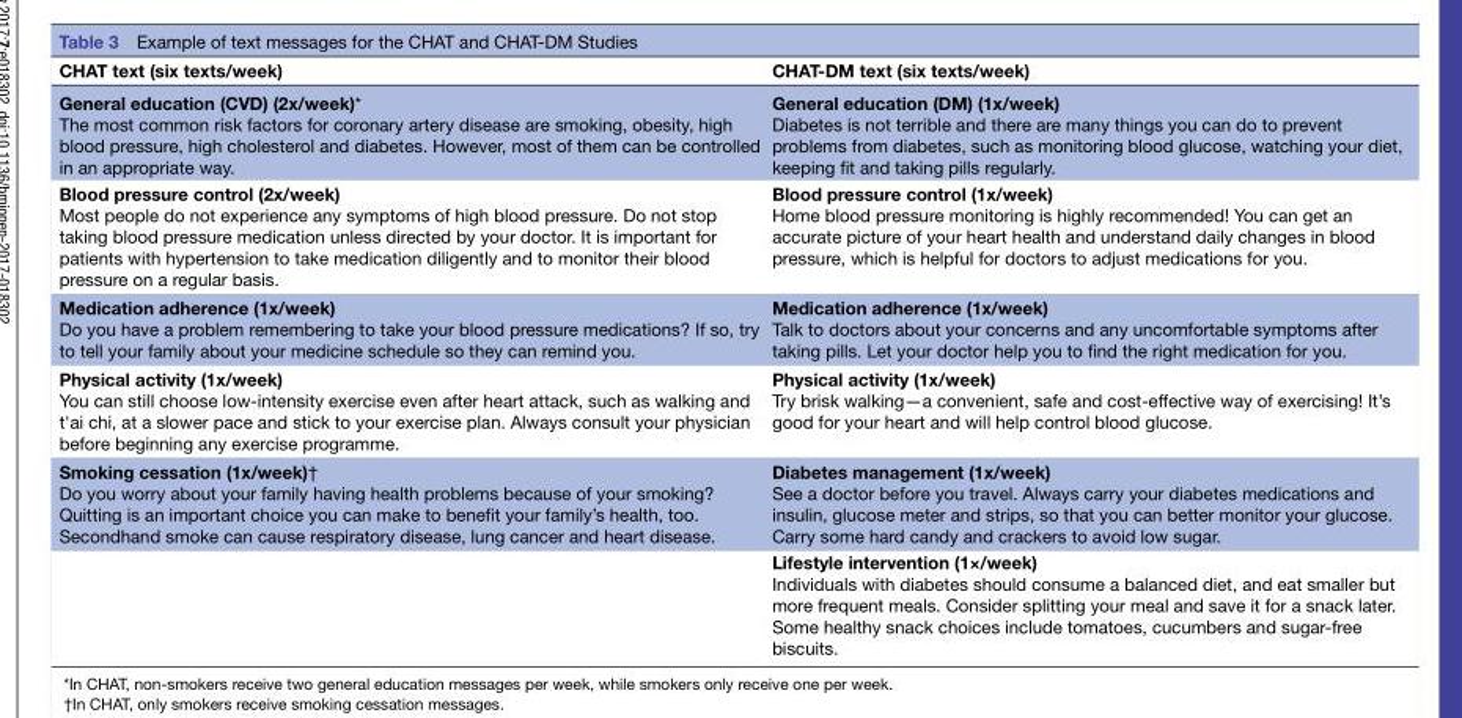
<table><thead><tr><td>CHAT text (six texts/week)</td><td>CHAT-DM text (six texts/week)</td></tr></thead><tbody><tr><td>General education (CVD) (2x/week)* The most common risk factors for coronary artery disease are smoking, obesity, high blood pressure, high cholesterol and diabetes. However, most of them can be controlled in an appropriate way.</td><td>General education (DM) (1x/week) Diabetes is not terrible and there are many things you can do to prevent problems from diabetes, such as monitoring blood glucose, watching your diet, keeping fit and taking pills regularly.</td></tr><tr><td>Blood pressure control (2x/week) Most people do not experience any symptoms of high blood pressure. Do not stop taking blood pressure medication unless directed by your doctor. It is important for patients with hypertension to take medication diligently and to monitor their blood pressure on a regular basis.</td><td>Blood pressure control (1x/week) Home blood pressure monitoring is highly recommended! You can get an accurate picture of your heart health and understand daily changes in blood pressure, which is helpful for doctors to adjust medications for you.</td></tr><tr><td>Medication adherence (1x/week) Do you have a problem remembering to take your blood pressure medications? If so, try to tell your family about your medicine schedule so they can remind you.</td><td>Medication adherence (1x/week) Talk to doctors about your concerns and any uncomfortable symptoms after taking pills. Let your doctor help you to find the right medication for you.</td></tr><tr><td>Physical activity (1x/week) You can still choose low-intensity exercise even after heart attack, such as walking and t&#x27;ai chi, at a slower pace and stick to your exercise plan. Always consult your physician before beginning any exercise programme.</td><td>Physical activity (1x/week) Try brisk walking—a convenient, safe and cost-effective way of exercising! It’s good for your heart and will help control blood glucose.</td></tr><tr><td rowspan="2">Smoking cessation (1x/week)† Do you worry about your family having health problems because of your smoking? Quitting is an important choice you can make to benefit your family’s health, too. Secondhand smoke can cause respiratory disease, lung cancer and heart disease.</td><td>Diabetes management (1x/week) See a doctor before you travel. Always carry your diabetes medications and insulin, glucose meter and strips, so that you can better monitor your glucose. Carry some hard candy and crackers to avoid low sugar.</td></tr><tr><td>Lifestyle intervention (1×/week) Individuals with diabetes should consume a balanced diet, and eat smaller but more frequent meals. Consider splitting your meal and save it for a snack later. Some healthy snack choices include tomatoes, cucumbers and sugar-free biscuits.</td></tr></tbody></table>